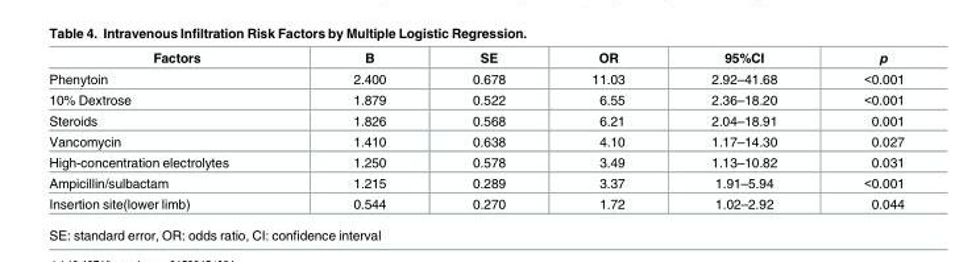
<table><thead><tr><td>Factors</td><td>B</td><td>SE</td><td>OR</td><td>95%CI</td><td>p</td></tr></thead><tbody><tr><td>Phenytoin</td><td>2.400</td><td>0.678</td><td>11.03</td><td>2.92–41.68</td><td>&lt;0.001</td></tr><tr><td>10% Dextrose</td><td>1.879</td><td>0.522</td><td>6.55</td><td>2.36–18.20</td><td>&lt;0.001</td></tr><tr><td>Steroids</td><td>1.826</td><td>0.568</td><td>6.21</td><td>2.04–18.91</td><td>0.001</td></tr><tr><td>Vancomycin</td><td>1.410</td><td>0.638</td><td>4.10</td><td>1.17–14.30</td><td>0.027</td></tr><tr><td>High-concentration electrolytes</td><td>1.250</td><td>0.578</td><td>3.49</td><td>1.13–10.82</td><td>0.031</td></tr><tr><td>Ampicillin/sulbactam</td><td>1.215</td><td>0.289</td><td>3.37</td><td>1.91–5.94</td><td>&lt;0.001</td></tr><tr><td>Insertion site(lower limb)</td><td>0.544</td><td>0.270</td><td>1.72</td><td>1.02–2.92</td><td>0.044</td></tr></tbody></table>